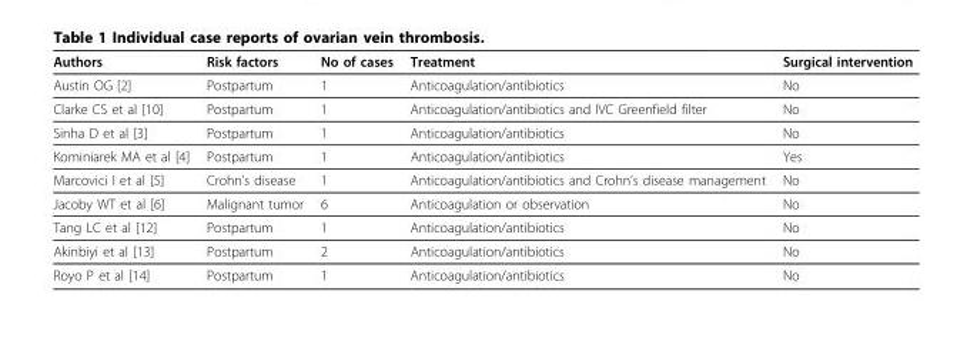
<table><thead><tr><td>Authors</td><td>Risk factors</td><td>No of cases</td><td>Treatment</td><td>Surgical intervention</td></tr></thead><tbody><tr><td>Austin OG [2]</td><td>Postpartum</td><td>1</td><td>Anticoagulation/antibiotics</td><td>No</td></tr><tr><td>Clarke CS et al [10]</td><td>Postpartum</td><td>1</td><td>Anticoagulation/antibiotics and IVC Greenfield filter</td><td>No</td></tr><tr><td>Sinha D et al [3]</td><td>Postpartum</td><td>1</td><td>Anticoagulation/antibiotics</td><td>No</td></tr><tr><td>Kominiarek MA et al [4]</td><td>Postpartum</td><td>1</td><td>Anticoagulation/antibiotics</td><td>Yes</td></tr><tr><td>Marcovici I et al [5]</td><td>Crohn’s disease</td><td>1</td><td>Anticoagulation/antibiotics and Crohn’s disease management</td><td>No</td></tr><tr><td>Jacoby WT et al [6]</td><td>Malignant tumor</td><td>6</td><td>Anticoagulation or observation</td><td>Νο</td></tr><tr><td>Tang LC et al [12]</td><td>Postpartum</td><td>1</td><td>Anticoagulation/antibiotics</td><td>Νο</td></tr><tr><td>Akinbiyi et al [13]</td><td>Postpartum</td><td>2</td><td>Anticoagulation/antibiotics</td><td>Νο</td></tr><tr><td>Royo P et al [14]</td><td>Postpartum</td><td>1</td><td>Anticoagulation/antibiotics</td><td>No</td></tr></tbody></table>